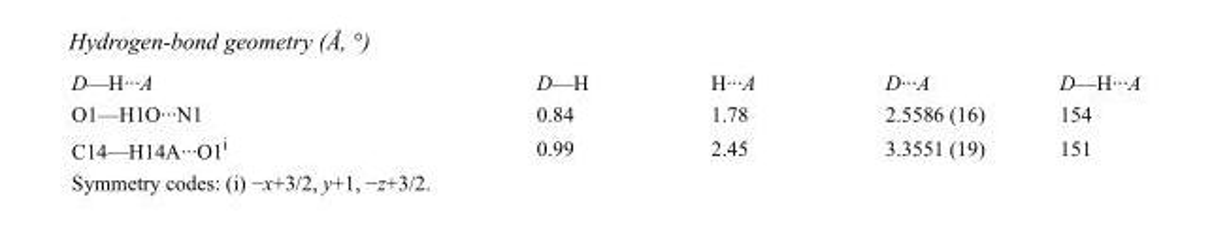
<table><tbody><tr><td>D—H···A</td><td>D—H</td><td>H···A</td><td>D···A</td><td>D—H···A</td></tr><tr><td>O1—H1O···N1</td><td>0.84</td><td>1.78</td><td>2.5586 (16)</td><td>154</td></tr><tr><td>C14—H14A···O1<sup>i</sup></td><td>0.99</td><td>2.45</td><td>3.3551 (19)</td><td>151</td></tr></tbody></table>